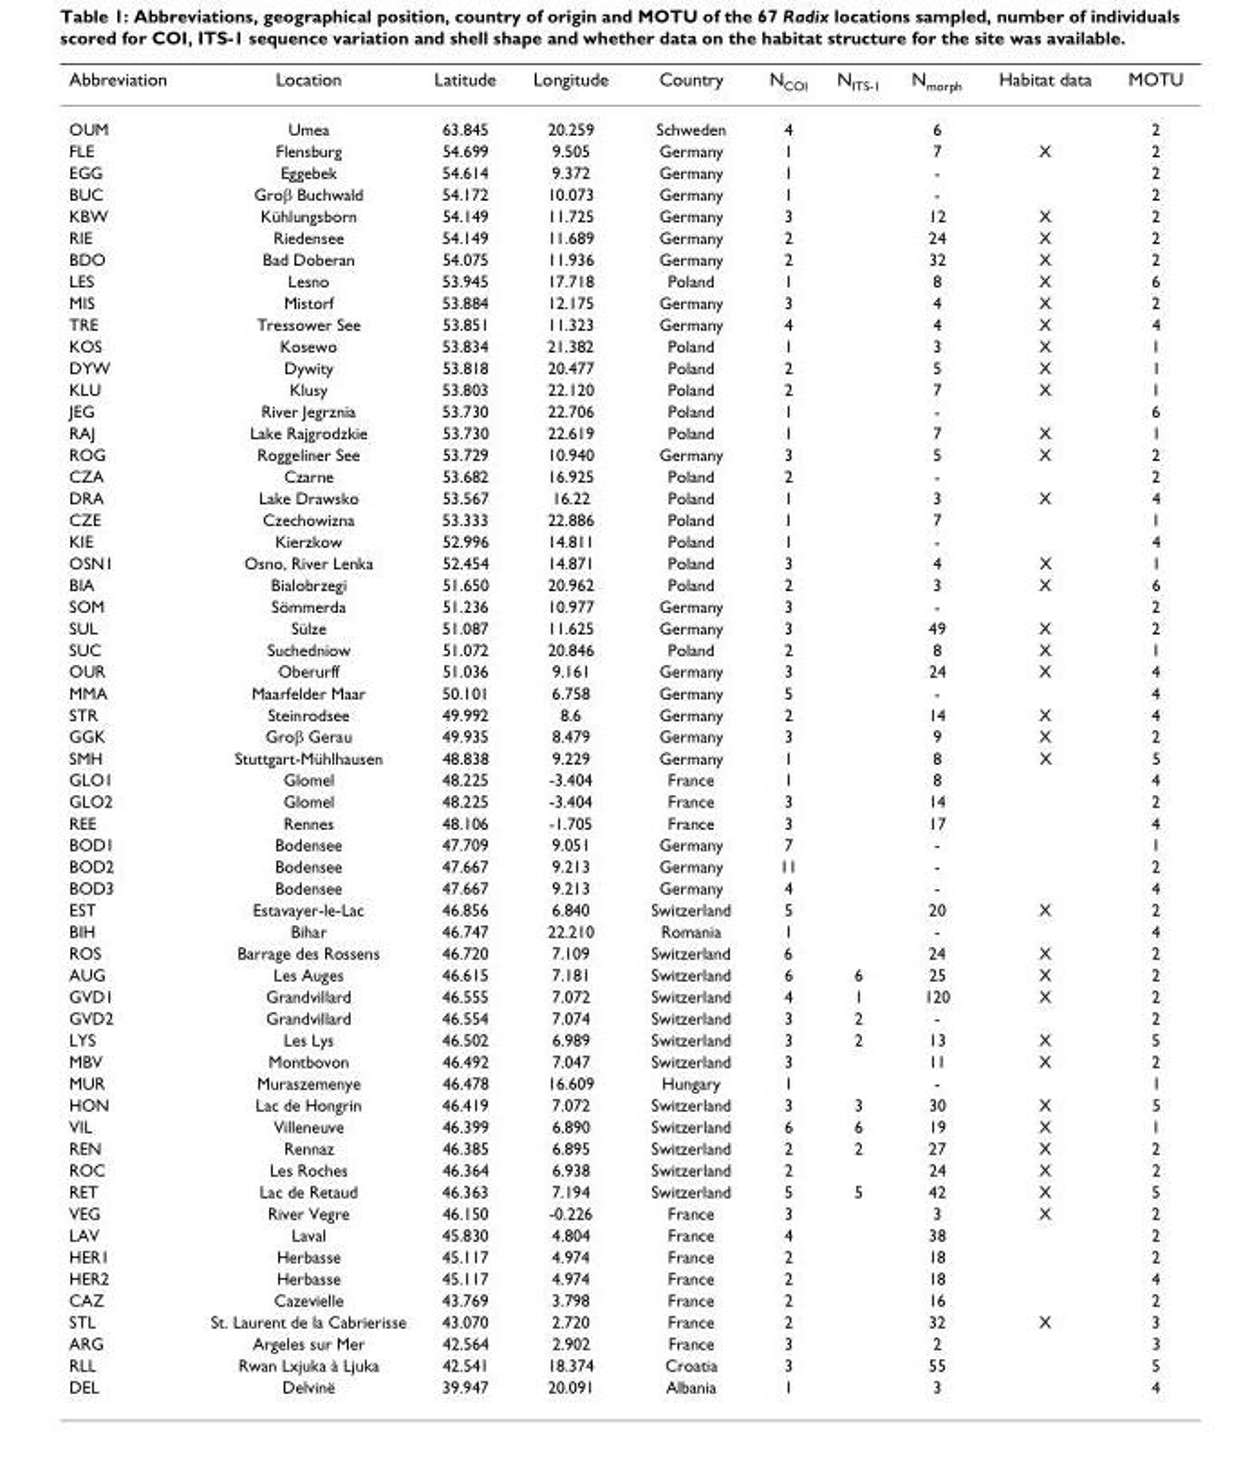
<table><thead><tr><td>Abbreviation</td><td>Location</td><td>Latitude</td><td>Longitude</td><td>Country</td><td>N<sub>COI</sub></td><td>N<sub>ITS-1</sub></td><td>N<sub>morph</sub></td><td>Habitat data</td><td>MOTU</td></tr></thead><tbody><tr><td>OUM</td><td>Umea</td><td>63.845</td><td>20.259</td><td>Schweden</td><td>4</td><td></td><td>6</td><td></td><td>2</td></tr><tr><td>FLE</td><td>Flensburg</td><td>54.699</td><td>9.505</td><td>Germany</td><td>1</td><td></td><td>7</td><td>X</td><td>2</td></tr><tr><td>EGG</td><td>Eggebek</td><td>54.614</td><td>9.372</td><td>Germany</td><td>1</td><td></td><td>-</td><td></td><td>2</td></tr><tr><td>BUC</td><td>Groβ Buchwald</td><td>54.172</td><td>10.073</td><td>Germany</td><td>1</td><td></td><td>-</td><td></td><td>2</td></tr><tr><td>KBW</td><td>Kühlungsborn</td><td>54.149</td><td>11.725</td><td>Germany</td><td>3</td><td></td><td>12</td><td>X</td><td>2</td></tr><tr><td>RIE</td><td>Riedensee</td><td>54.149</td><td>11.689</td><td>Germany</td><td>2</td><td></td><td>24</td><td>X</td><td>2</td></tr><tr><td>BDO</td><td>Bad Doberan</td><td>54.075</td><td>11.936</td><td>Germany</td><td>2</td><td></td><td>32</td><td>X</td><td>2</td></tr><tr><td>LES</td><td>Lesno</td><td>53.945</td><td>17.718</td><td>Poland</td><td>1</td><td></td><td>8</td><td>X</td><td>6</td></tr><tr><td>MIS</td><td>Mistorf</td><td>53.884</td><td>12.175</td><td>Germany</td><td>3</td><td></td><td>4</td><td>X</td><td>2</td></tr><tr><td>TRE</td><td>Tressower See</td><td>53.851</td><td>11.323</td><td>Germany</td><td>4</td><td></td><td>4</td><td>X</td><td>4</td></tr><tr><td>KOS</td><td>Kosewo</td><td>53.834</td><td>21.382</td><td>Poland</td><td>1</td><td></td><td>3</td><td>X</td><td>1</td></tr><tr><td>DYW</td><td>Dywity</td><td>53.818</td><td>20.477</td><td>Poland</td><td>2</td><td></td><td>5</td><td>X</td><td>1</td></tr><tr><td>KLU</td><td>Klusy</td><td>53.803</td><td>22.120</td><td>Poland</td><td>2</td><td></td><td>7</td><td>X</td><td>1</td></tr><tr><td>JEG</td><td>River Jegrznia</td><td>53.730</td><td>22.706</td><td>Poland</td><td>1</td><td></td><td>-</td><td></td><td>6</td></tr><tr><td>RAJ</td><td>Lake Rajgrodzkie</td><td>53.730</td><td>22.619</td><td>Poland</td><td>1</td><td></td><td>7</td><td>X</td><td>1</td></tr><tr><td>ROG</td><td>Roggeliner See</td><td>53.729</td><td>10.940</td><td>Germany</td><td>3</td><td></td><td>5</td><td>X</td><td>2</td></tr><tr><td>CZA</td><td>Czarne</td><td>53.682</td><td>16.925</td><td>Poland</td><td>2</td><td></td><td>-</td><td></td><td>2</td></tr><tr><td>DRA</td><td>Lake Drawsko</td><td>53.567</td><td>16.22</td><td>Poland</td><td>1</td><td></td><td>3</td><td>X</td><td>4</td></tr><tr><td>CZE</td><td>Czechowizna</td><td>53.333</td><td>22.886</td><td>Poland</td><td>1</td><td></td><td>7</td><td></td><td>1</td></tr><tr><td>KIE</td><td>Kierzkow</td><td>52.996</td><td>14.811</td><td>Poland</td><td>1</td><td></td><td>-</td><td></td><td>4</td></tr><tr><td>OSN1</td><td>Osno, River Lenka</td><td>52.454</td><td>14.871</td><td>Poland</td><td>3</td><td></td><td>4</td><td>X</td><td>1</td></tr><tr><td>BIA</td><td>Bialobrzegi</td><td>51.650</td><td>20.962</td><td>Poland</td><td>2</td><td></td><td>3</td><td>X</td><td>6</td></tr><tr><td>SOM</td><td>Sömmerda</td><td>51.236</td><td>10.977</td><td>Germany</td><td>3</td><td></td><td>-</td><td></td><td>2</td></tr><tr><td>SUL</td><td>Sülze</td><td>51.087</td><td>11.625</td><td>Germany</td><td>3</td><td></td><td>49</td><td>X</td><td>2</td></tr><tr><td>SUC</td><td>Suchedniow</td><td>51.072</td><td>20.846</td><td>Poland</td><td>2</td><td></td><td>8</td><td>X</td><td>1</td></tr><tr><td>OUR</td><td>Oberurff</td><td>51.036</td><td>9.161</td><td>Germany</td><td>3</td><td></td><td>24</td><td>X</td><td>4</td></tr><tr><td>MMA</td><td>Maarfelder Maar</td><td>50.101</td><td>6.758</td><td>Germany</td><td>5</td><td></td><td>-</td><td></td><td>4</td></tr><tr><td>STR</td><td>Steinrodsee</td><td>49.992</td><td>8.6</td><td>Germany</td><td>2</td><td></td><td>14</td><td>X</td><td>4</td></tr><tr><td>GGK</td><td>Groβ Gerau</td><td>49.935</td><td>8.479</td><td>Germany</td><td>3</td><td></td><td>9</td><td>X</td><td>2</td></tr><tr><td>SMH</td><td>Stuttgart-Mühlhausen</td><td>48.838</td><td>9.229</td><td>Germany</td><td>1</td><td></td><td>8</td><td>X</td><td>5</td></tr><tr><td>GLO1</td><td>Glomel</td><td>48.225</td><td>-3.404</td><td>France</td><td>1</td><td></td><td>8</td><td></td><td>4</td></tr><tr><td>GLO2</td><td>Glomel</td><td>48.225</td><td>-3.404</td><td>France</td><td>3</td><td></td><td>14</td><td></td><td>2</td></tr><tr><td>REE</td><td>Rennes</td><td>48.106</td><td>-1.705</td><td>France</td><td>3</td><td></td><td>17</td><td></td><td>4</td></tr><tr><td>BOD1</td><td>Bodensee</td><td>47.709</td><td>9.051</td><td>Germany</td><td>7</td><td></td><td>-</td><td></td><td>1</td></tr><tr><td>BOD2</td><td>Bodensee</td><td>47.667</td><td>9.213</td><td>Germany</td><td>11</td><td></td><td>-</td><td></td><td>2</td></tr><tr><td>BOD3</td><td>Bodensee</td><td>47.667</td><td>9.213</td><td>Germany</td><td>4</td><td></td><td>-</td><td></td><td>4</td></tr><tr><td>EST</td><td>Estavayer-le-Lac</td><td>46.856</td><td>6.840</td><td>Switzerland</td><td>5</td><td></td><td>20</td><td>X</td><td>2</td></tr><tr><td>BIH</td><td>Bihar</td><td>46.747</td><td>22.210</td><td>Romania</td><td>1</td><td></td><td>-</td><td></td><td>4</td></tr><tr><td>ROS</td><td>Barrage des Rossens</td><td>46.720</td><td>7.109</td><td>Switzerland</td><td>6</td><td></td><td>24</td><td>X</td><td>2</td></tr><tr><td>AUG</td><td>Les Auges</td><td>46.615</td><td>7.181</td><td>Switzerland</td><td>6</td><td>6</td><td>25</td><td>X</td><td>2</td></tr><tr><td>GVD1</td><td>Grandvillard</td><td>46.555</td><td>7.072</td><td>Switzerland</td><td>4</td><td>1</td><td>120</td><td>X</td><td>2</td></tr><tr><td>GVD2</td><td>Grandvillard</td><td>46.554</td><td>7.074</td><td>Switzerland</td><td>3</td><td>2</td><td>-</td><td></td><td>2</td></tr><tr><td>LYS</td><td>Les Lys</td><td>46.502</td><td>6.989</td><td>Switzerland</td><td>3</td><td>2</td><td>13</td><td>X</td><td>5</td></tr><tr><td>MBV</td><td>Montbovon</td><td>46.492</td><td>7.047</td><td>Switzerland</td><td>3</td><td></td><td>11</td><td>X</td><td>2</td></tr><tr><td>MUR</td><td>Muraszemenye</td><td>46.478</td><td>16.609</td><td>Hungary</td><td>1</td><td></td><td>-</td><td></td><td>1</td></tr><tr><td>HON</td><td>Lac de Hongrin</td><td>46.419</td><td>7.072</td><td>Switzerland</td><td>3</td><td>3</td><td>30</td><td>X</td><td>5</td></tr><tr><td>VIL</td><td>Villeneuve</td><td>46.399</td><td>6.890</td><td>Switzerland</td><td>6</td><td>6</td><td>19</td><td>X</td><td>1</td></tr><tr><td>REN</td><td>Rennaz</td><td>46.385</td><td>6.895</td><td>Switzerland</td><td>2</td><td>2</td><td>27</td><td>X</td><td>2</td></tr><tr><td>ROC</td><td>Les Roches</td><td>46.364</td><td>6.938</td><td>Switzerland</td><td>2</td><td></td><td>24</td><td>X</td><td>2</td></tr><tr><td>RET</td><td>Lac de Retaud</td><td>46.363</td><td>7.194</td><td>Switzerland</td><td>5</td><td>5</td><td>42</td><td>X</td><td>5</td></tr><tr><td>VEG</td><td>River Vegre</td><td>46.150</td><td>-0.226</td><td>France</td><td>3</td><td></td><td>3</td><td>X</td><td>2</td></tr><tr><td>LAV</td><td>Laval</td><td>45.830</td><td>4.804</td><td>France</td><td>4</td><td></td><td>38</td><td></td><td>2</td></tr><tr><td>HER1</td><td>Herbasse</td><td>45.117</td><td>4.974</td><td>France</td><td>2</td><td></td><td>18</td><td></td><td>2</td></tr><tr><td>HER2</td><td>Herbasse</td><td>45.117</td><td>4.974</td><td>France</td><td>2</td><td></td><td>18</td><td></td><td>4</td></tr><tr><td>CAZ</td><td>Cazevielle</td><td>43.769</td><td>3.798</td><td>France</td><td>2</td><td></td><td>16</td><td></td><td>2</td></tr><tr><td>STL</td><td>St. Laurent de la Cabrierisse</td><td>43.070</td><td>2.720</td><td>France</td><td>2</td><td></td><td>32</td><td>X</td><td>3</td></tr><tr><td>ARG</td><td>Argeles sur Mer</td><td>42.564</td><td>2.902</td><td>France</td><td>3</td><td></td><td>2</td><td></td><td>3</td></tr><tr><td>RLL</td><td>Rwan Lxjuka à Ljuka</td><td>42.541</td><td>18.374</td><td>Croatia</td><td>3</td><td></td><td>55</td><td></td><td>5</td></tr><tr><td>DEL</td><td>Delvinë</td><td>39.947</td><td>20.091</td><td>Albania</td><td>1</td><td></td><td>3</td><td></td><td>4</td></tr></tbody></table>